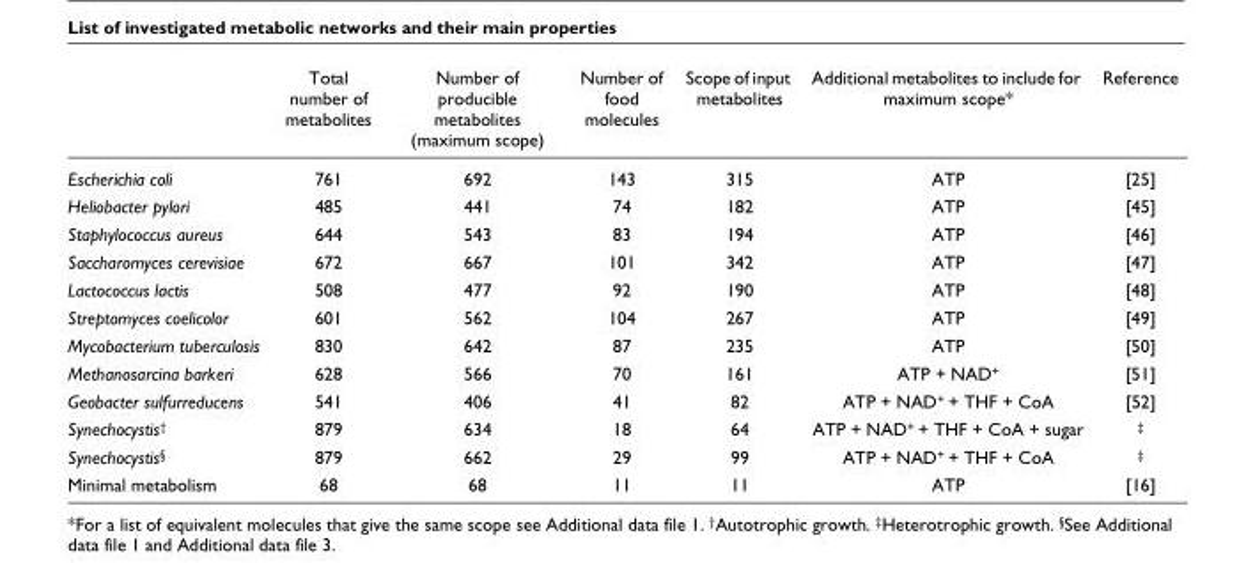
<table><thead><tr><td></td><td>Total number of metabolites</td><td>Number of producible metabolites (maximum scope)</td><td>Number of food molecules</td><td>Scope of input metabolites</td><td>Additional metabolites to include for maximum scope*</td><td>Reference</td></tr></thead><tbody><tr><td>Escherichia coli</td><td>761</td><td>692</td><td>143</td><td>315</td><td>ATP</td><td>[25]</td></tr><tr><td>Heliobacter pylori</td><td>485</td><td>441</td><td>74</td><td>182</td><td>ATP</td><td>[45]</td></tr><tr><td>Staphylococcus aureus</td><td>644</td><td>543</td><td>83</td><td>194</td><td>ATP</td><td>[46]</td></tr><tr><td>Saccharomyces cerevisiae</td><td>672</td><td>667</td><td>101</td><td>342</td><td>ATP</td><td>[47]</td></tr><tr><td>Lactococcus lactis</td><td>508</td><td>477</td><td>92</td><td>190</td><td>ATP</td><td>[48]</td></tr><tr><td>Streptomyces coelicolor</td><td>601</td><td>562</td><td>104</td><td>267</td><td>ATP</td><td>[49]</td></tr><tr><td>Mycobacterium tuberculosis</td><td>830</td><td>642</td><td>87</td><td>235</td><td>ATP</td><td>[50]</td></tr><tr><td>Methanosarcina barkeri</td><td>628</td><td>566</td><td>70</td><td>161</td><td>ATP + NAD<sup>+</sup></td><td>[51]</td></tr><tr><td>Geobacter sulfurreducens</td><td>541</td><td>406</td><td>41</td><td>82</td><td>ATP + NAD<sup>+</sup> + THF + CoA</td><td>[52]</td></tr><tr><td>Synechocystis<sup>†</sup></td><td>879</td><td>634</td><td>18</td><td>64</td><td>ATP + NAD<sup>+</sup> + THF + CoA + sugar</td><td><sup>‡</sup></td></tr><tr><td>Synechocystis<sup>§</sup></td><td>879</td><td>662</td><td>29</td><td>99</td><td>ATP + NAD<sup>+</sup> + THF + CoA</td><td><sup>‡</sup></td></tr><tr><td>Minimal metabolism</td><td>68</td><td>68</td><td>11</td><td>11</td><td>ATP</td><td>[16]</td></tr></tbody></table>